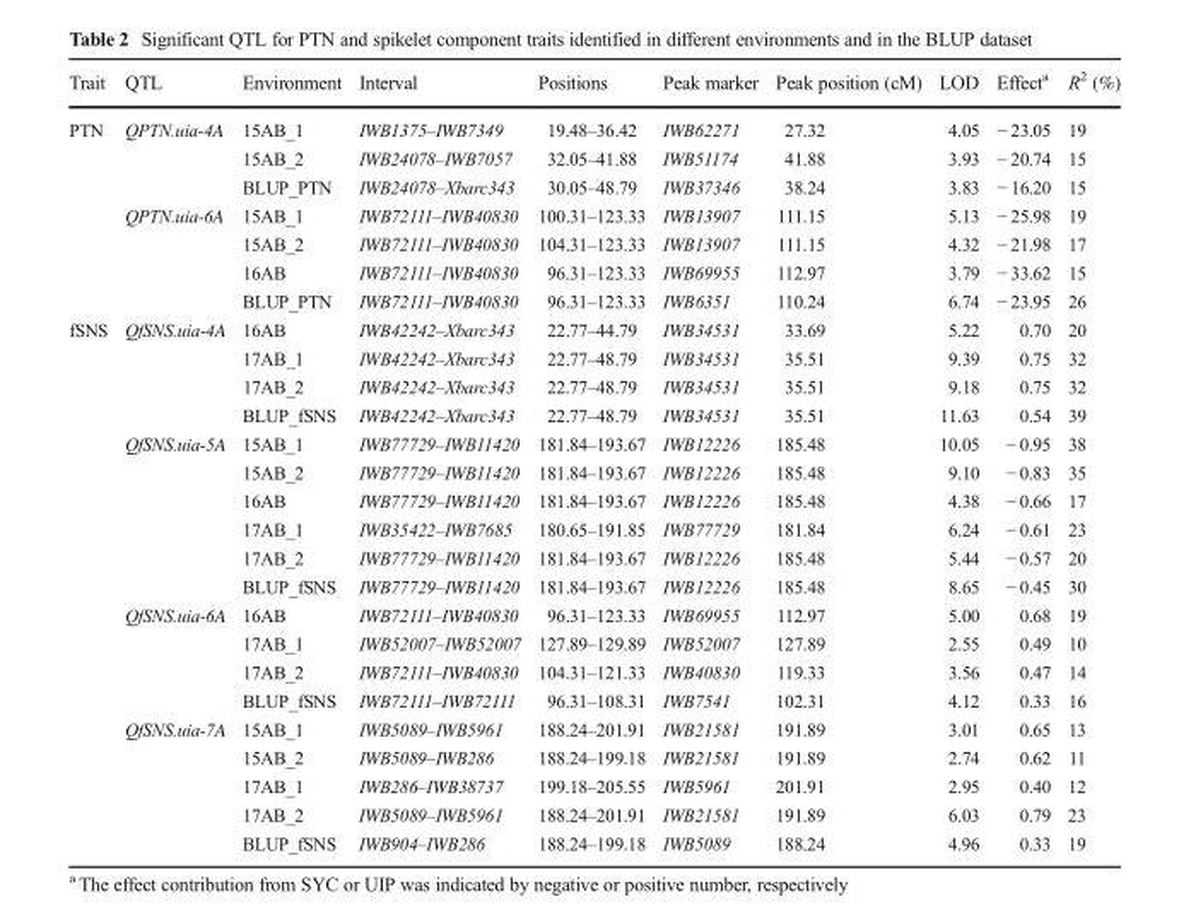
<table><thead><tr><td>Trait</td><td>QTL</td><td>Environment</td><td>Interval</td><td>Positions</td><td>Peak marker</td><td>Peak position (cM)</td><td>LOD</td><td>Effect<sup>a</sup></td><td>R<sup>2</sup> (%)</td></tr></thead><tbody><tr><td rowspan="7">PTN</td><td>QPTN.uia-4A</td><td>15AB_1</td><td>IWB1375–IWB7349</td><td>19.48–36.42</td><td>IWB62271</td><td>27.32</td><td>4.05</td><td>− 23.05</td><td>19</td></tr><tr><td></td><td>15AB_2</td><td>IWB24078–IWB7057</td><td>32.05–41.88</td><td>IWB51174</td><td>41.88</td><td>3.93</td><td>− 20.74</td><td>15</td></tr><tr><td></td><td>BLUP_PTN</td><td>IWB24078–Xbarc343</td><td>30.05–48.79</td><td>IWB37346</td><td>38.24</td><td>3.83</td><td>− 16.20</td><td>15</td></tr><tr><td>QPTN.uia-6A</td><td>15AB_1</td><td>IWB72111–IWB40830</td><td>100.31–123.33</td><td>IWB13907</td><td>111.15</td><td>5.13</td><td>− 25.98</td><td>19</td></tr><tr><td></td><td>15AB_2</td><td>IWB72111–IWB40830</td><td>104.31–123.33</td><td>IWB13907</td><td>111.15</td><td>4.32</td><td>− 21.98</td><td>17</td></tr><tr><td></td><td>16AB</td><td>IWB72111–IWB40830</td><td>96.31–123.33</td><td>IWB69955</td><td>112.97</td><td>3.79</td><td>− 33.62</td><td>15</td></tr><tr><td></td><td>BLUP_PTN</td><td>IWB72111–IWB40830</td><td>96.31–123.33</td><td>IWB6351</td><td>110.24</td><td>6.74</td><td>− 23.95</td><td>26</td></tr><tr><td rowspan="19">fSNS</td><td>QfSNS.uia-4A</td><td>16AB</td><td>IWB42242–Xbarc343</td><td>22.77–44.79</td><td>IWB34531</td><td>33.69</td><td>5.22</td><td>0.70</td><td>20</td></tr><tr><td></td><td>17AB_1</td><td>IWB42242–Xbarc343</td><td>22.77–48.79</td><td>IWB34531</td><td>35.51</td><td>9.39</td><td>0.75</td><td>32</td></tr><tr><td></td><td>17AB_2</td><td>IWB42242–Xbarc343</td><td>22.77–48.79</td><td>IWB34531</td><td>35.51</td><td>9.18</td><td>0.75</td><td>32</td></tr><tr><td></td><td>BLUP_fSNS</td><td>IWB42242–Xbarc343</td><td>22.77–48.79</td><td>IWB34531</td><td>35.51</td><td>11.63</td><td>0.54</td><td>39</td></tr><tr><td>QfSNS.uia-5A</td><td>15AB_1</td><td>IWB77729–IWB11420</td><td>181.84–193.67</td><td>IWB12226</td><td>185.48</td><td>10.05</td><td>− 0.95</td><td>38</td></tr><tr><td></td><td>15AB_2</td><td>IWB77729–IWB11420</td><td>181.84–193.67</td><td>IWB12226</td><td>185.48</td><td>9.10</td><td>− 0.83</td><td>35</td></tr><tr><td></td><td>16AB</td><td>IWB77729–IWB11420</td><td>181.84–193.67</td><td>IWB12226</td><td>185.48</td><td>4.38</td><td>− 0.66</td><td>17</td></tr><tr><td></td><td>17AB_1</td><td>IWB35422–IWB7685</td><td>180.65–191.85</td><td>IWB77729</td><td>181.84</td><td>6.24</td><td>− 0.61</td><td>23</td></tr><tr><td></td><td>17AB_2</td><td>IWB77729–IWB11420</td><td>181.84–193.67</td><td>IWB12226</td><td>185.48</td><td>5.44</td><td>− 0.57</td><td>20</td></tr><tr><td></td><td>BLUP_fSNS</td><td>IWB77729–IWB11420</td><td>181.84–193.67</td><td>IWB12226</td><td>185.48</td><td>8.65</td><td>− 0.45</td><td>30</td></tr><tr><td>QfSNS.uia-6A</td><td>16AB</td><td>IWB72111–IWB40830</td><td>96.31–123.33</td><td>IWB69955</td><td>112.97</td><td>5.00</td><td>0.68</td><td>19</td></tr><tr><td></td><td>17AB_1</td><td>IWB52007–IWB52007</td><td>127.89–129.89</td><td>IWB52007</td><td>127.89</td><td>2.55</td><td>0.49</td><td>10</td></tr><tr><td></td><td>17AB_2</td><td>IWB72111–IWB40830</td><td>104.31–121.33</td><td>IWB40830</td><td>119.33</td><td>3.56</td><td>0.47</td><td>14</td></tr><tr><td></td><td>BLUP_fSNS</td><td>IWB72111–IWB72111</td><td>96.31–108.31</td><td>IWB7541</td><td>102.31</td><td>4.12</td><td>0.33</td><td>16</td></tr><tr><td>QfSNS.uia-7A</td><td>15AB_1</td><td>IWB5089–IWB5961</td><td>188.24–201.91</td><td>IWB21581</td><td>191.89</td><td>3.01</td><td>0.65</td><td>13</td></tr><tr><td></td><td>15AB_2</td><td>IWB5089–IWB286</td><td>188.24–199.18</td><td>IWB21581</td><td>191.89</td><td>2.74</td><td>0.62</td><td>11</td></tr><tr><td></td><td>17AB_1</td><td>IWB286–IWB38737</td><td>199.18–205.55</td><td>IWB5961</td><td>201.91</td><td>2.95</td><td>0.40</td><td>12</td></tr><tr><td></td><td>17AB_2</td><td>IWB5089–IWB5961</td><td>188.24–201.91</td><td>IWB21581</td><td>191.89</td><td>6.03</td><td>0.79</td><td>23</td></tr><tr><td></td><td>BLUP_fSNS</td><td>IWB904–IWB286</td><td>188.24–199.18</td><td>IWB5089</td><td>188.24</td><td>4.96</td><td>0.33</td><td>19</td></tr></tbody></table>